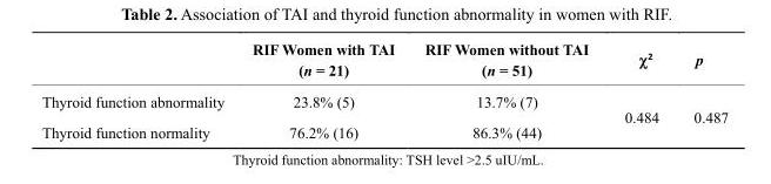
<table><thead><tr><td></td><td>RIF Women with TAI (n = 21)</td><td>RIF Women without TAI (n = 51)</td><td>χ<sup>2</sup></td><td>p</td></tr></thead><tbody><tr><td>Thyroid function abnormality</td><td>23.8% (5)</td><td>13.7% (7)</td><td rowspan="2">0.484</td><td rowspan="2">0.487</td></tr><tr><td>Thyroid function normality</td><td>76.2% (16)</td><td>86.3% (44)</td></tr></tbody></table>